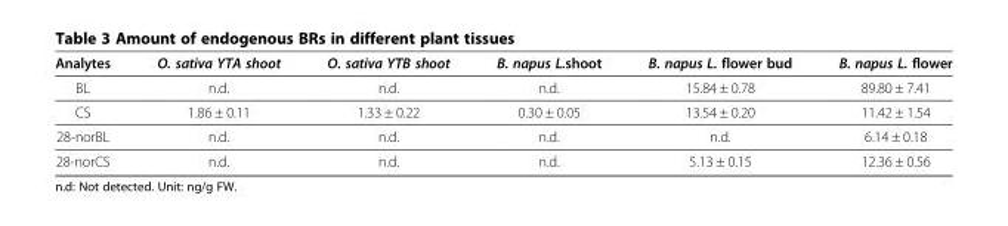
<table><thead><tr><td>Analytes</td><td>O. sativa YTA shoot</td><td>O. sativa YTB shoot</td><td>B. napus L.shoot</td><td>B. napus L. flower bud</td><td>B. napus L. flower</td></tr></thead><tbody><tr><td>BL</td><td>n.d.</td><td>n.d.</td><td>n.d.</td><td>15.84 ± 0.78</td><td>89.80 ± 7.41</td></tr><tr><td>CS</td><td>1.86 ± 0.11</td><td>1.33 ± 0.22</td><td>0.30 ± 0.05</td><td>13.54 ± 0.20</td><td>11.42 ± 1.54</td></tr><tr><td>28-norBL</td><td>n.d.</td><td>n.d.</td><td>n.d.</td><td>n.d.</td><td>6.14 ± 0.18</td></tr><tr><td>28-norCS</td><td>n.d.</td><td>n.d.</td><td>n.d.</td><td>5.13 ± 0.15</td><td>12.36 ± 0.56</td></tr></tbody></table>